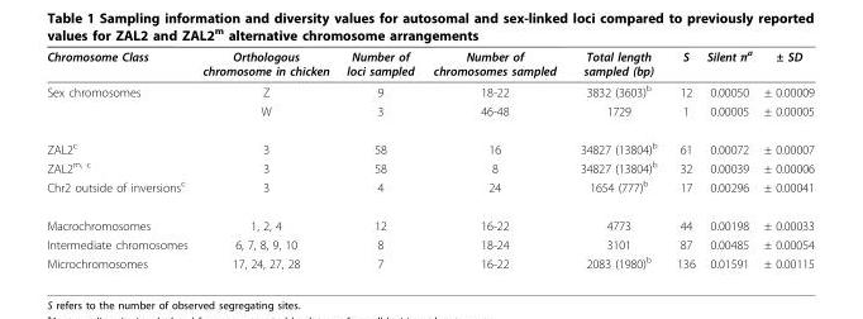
<table><thead><tr><td>Chromosome Class</td><td>Orthologous chromosome in chicken</td><td>Number of loci sampled</td><td>Number of chromosomes sampled</td><td>Total length sampled (bp)</td><td>S</td><td>Silent π<sup>a</sup></td><td>± SD</td></tr></thead><tbody><tr><td rowspan="2">Sex chromosomes</td><td>Z</td><td>9</td><td>18-22</td><td>3832 (3603)<sup>b</sup></td><td>12</td><td>0.00050</td><td>± 0.00009</td></tr><tr><td>W</td><td>3</td><td>46-48</td><td>1729</td><td>1</td><td>0.00005</td><td>± 0.00005</td></tr><tr><td>ZAL2<sup>c</sup></td><td>3</td><td>58</td><td>16</td><td>34827 (13804)<sup>b</sup></td><td>61</td><td>0.00072</td><td>± 0.00007</td></tr><tr><td>ZAL2<sup>m, c</sup></td><td>3</td><td>58</td><td>8</td><td>34827 (13804)<sup>b</sup></td><td>32</td><td>0.00039</td><td>± 0.00006</td></tr><tr><td>Chr2 outside of inversions<sup>c</sup></td><td>3</td><td>4</td><td>24</td><td>1654 (777)<sup>b</sup></td><td>17</td><td>0.00296</td><td>± 0.00041</td></tr><tr><td>Macrochromosomes</td><td>1, 2, 4</td><td>12</td><td>16-22</td><td>4773</td><td>44</td><td>0.00198</td><td>± 0.00033</td></tr><tr><td>Intermediate chromosomes</td><td>6, 7, 8, 9, 10</td><td>8</td><td>18-24</td><td>3101</td><td>87</td><td>0.00485</td><td>± 0.00054</td></tr><tr><td>Microchromosomes</td><td>17, 24, 27, 28</td><td>7</td><td>16-22</td><td>2083 (1980)<sup>b</sup></td><td>136</td><td>0.01591</td><td>± 0.00115</td></tr></tbody></table>